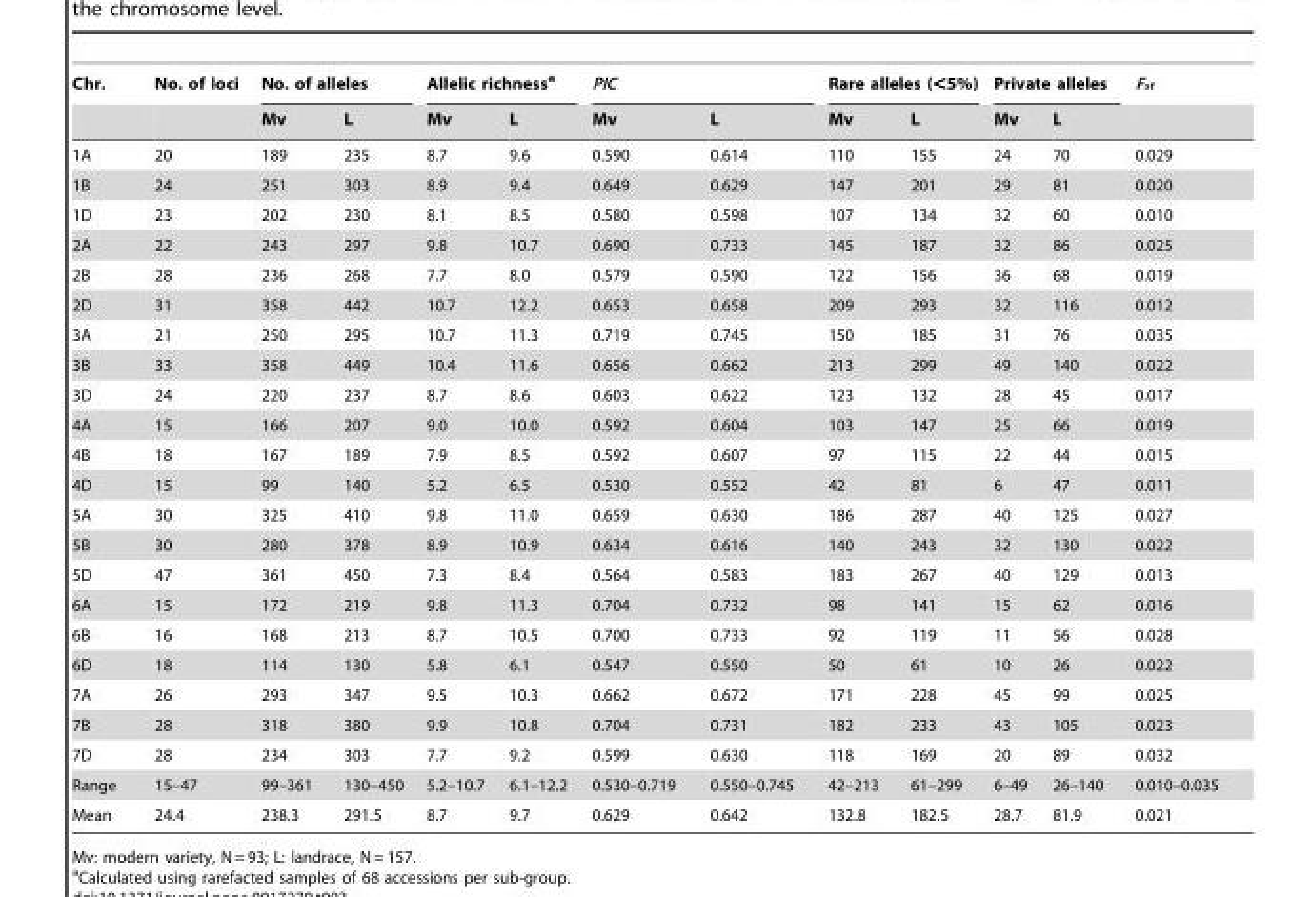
<table><thead><tr><td rowspan="2">Chr.</td><td rowspan="2">No. of loci</td><td colspan="2">No. of alleles</td><td colspan="2">Allelic richness<sup>a</sup></td><td colspan="2">PIC</td><td colspan="2">Rare alleles (&lt;5%)</td><td colspan="2">Private alleles</td><td rowspan="2">F<sub>st</sub></td></tr><tr><td>Mv</td><td>L</td><td>Mv</td><td>L</td><td>Mv</td><td>L</td><td>Mv</td><td>L</td><td>Mv</td><td>L</td></tr></thead><tbody><tr><td>1A</td><td>20</td><td>189</td><td>235</td><td>8.7</td><td>9.6</td><td>0.590</td><td>0.614</td><td>110</td><td>155</td><td>24</td><td>70</td><td>0.029</td></tr><tr><td>1B</td><td>24</td><td>251</td><td>303</td><td>8.9</td><td>9.4</td><td>0.649</td><td>0.629</td><td>147</td><td>201</td><td>29</td><td>81</td><td>0.020</td></tr><tr><td>1D</td><td>23</td><td>202</td><td>230</td><td>8.1</td><td>8.5</td><td>0.580</td><td>0.598</td><td>107</td><td>134</td><td>32</td><td>60</td><td>0.010</td></tr><tr><td>2A</td><td>22</td><td>243</td><td>297</td><td>9.8</td><td>10.7</td><td>0.690</td><td>0.733</td><td>145</td><td>187</td><td>32</td><td>86</td><td>0.025</td></tr><tr><td>2B</td><td>28</td><td>236</td><td>268</td><td>7.7</td><td>8.0</td><td>0.579</td><td>0.590</td><td>122</td><td>156</td><td>36</td><td>68</td><td>0.019</td></tr><tr><td>2D</td><td>31</td><td>358</td><td>442</td><td>10.7</td><td>12.2</td><td>0.653</td><td>0.658</td><td>209</td><td>293</td><td>32</td><td>116</td><td>0.012</td></tr><tr><td>3A</td><td>21</td><td>250</td><td>295</td><td>10.7</td><td>11.3</td><td>0.719</td><td>0.745</td><td>150</td><td>185</td><td>31</td><td>76</td><td>0.035</td></tr><tr><td>3B</td><td>33</td><td>358</td><td>449</td><td>10.4</td><td>11.6</td><td>0.656</td><td>0.662</td><td>213</td><td>299</td><td>49</td><td>140</td><td>0.022</td></tr><tr><td>3D</td><td>24</td><td>220</td><td>237</td><td>8.7</td><td>8.6</td><td>0.603</td><td>0.622</td><td>123</td><td>132</td><td>28</td><td>45</td><td>0.017</td></tr><tr><td>4A</td><td>15</td><td>166</td><td>207</td><td>9.0</td><td>10.0</td><td>0.592</td><td>0.604</td><td>103</td><td>147</td><td>25</td><td>66</td><td>0.019</td></tr><tr><td>4B</td><td>18</td><td>167</td><td>189</td><td>7.9</td><td>8.5</td><td>0.592</td><td>0.607</td><td>97</td><td>115</td><td>22</td><td>44</td><td>0.015</td></tr><tr><td>4D</td><td>15</td><td>99</td><td>140</td><td>5.2</td><td>6.5</td><td>0.530</td><td>0.552</td><td>42</td><td>81</td><td>6</td><td>47</td><td>0.011</td></tr><tr><td>5A</td><td>30</td><td>325</td><td>410</td><td>9.8</td><td>11.0</td><td>0.659</td><td>0.630</td><td>186</td><td>287</td><td>40</td><td>125</td><td>0.027</td></tr><tr><td>5B</td><td>30</td><td>280</td><td>378</td><td>8.9</td><td>10.9</td><td>0.634</td><td>0.616</td><td>140</td><td>243</td><td>32</td><td>130</td><td>0.022</td></tr><tr><td>5D</td><td>47</td><td>361</td><td>450</td><td>7.3</td><td>8.4</td><td>0.564</td><td>0.583</td><td>183</td><td>267</td><td>40</td><td>129</td><td>0.013</td></tr><tr><td>6A</td><td>15</td><td>172</td><td>219</td><td>9.8</td><td>11.3</td><td>0.704</td><td>0.732</td><td>98</td><td>141</td><td>15</td><td>62</td><td>0.016</td></tr><tr><td>6B</td><td>16</td><td>168</td><td>213</td><td>8.7</td><td>10.5</td><td>0.700</td><td>0.733</td><td>92</td><td>119</td><td>11</td><td>56</td><td>0.028</td></tr><tr><td>6D</td><td>18</td><td>114</td><td>130</td><td>5.8</td><td>6.1</td><td>0.547</td><td>0.550</td><td>50</td><td>61</td><td>10</td><td>26</td><td>0.022</td></tr><tr><td>7A</td><td>26</td><td>293</td><td>347</td><td>9.5</td><td>10.3</td><td>0.662</td><td>0.672</td><td>171</td><td>228</td><td>45</td><td>99</td><td>0.025</td></tr><tr><td>7B</td><td>28</td><td>318</td><td>380</td><td>9.9</td><td>10.8</td><td>0.704</td><td>0.731</td><td>182</td><td>233</td><td>43</td><td>105</td><td>0.023</td></tr><tr><td>7D</td><td>28</td><td>234</td><td>303</td><td>7.7</td><td>9.2</td><td>0.599</td><td>0.630</td><td>118</td><td>169</td><td>20</td><td>89</td><td>0.032</td></tr><tr><td>Range</td><td>15–47</td><td>99–361</td><td>130–450</td><td>5.2–10.7</td><td>6.1–12.2</td><td>0.530–0.719</td><td>0.550–0.745</td><td>42–213</td><td>61–299</td><td>6–49</td><td>26–140</td><td>0.010–0.035</td></tr><tr><td>Mean</td><td>24.4</td><td>238.3</td><td>291.5</td><td>8.7</td><td>9.7</td><td>0.629</td><td>0.642</td><td>132.8</td><td>182.5</td><td>28.7</td><td>81.9</td><td>0.021</td></tr></tbody></table>